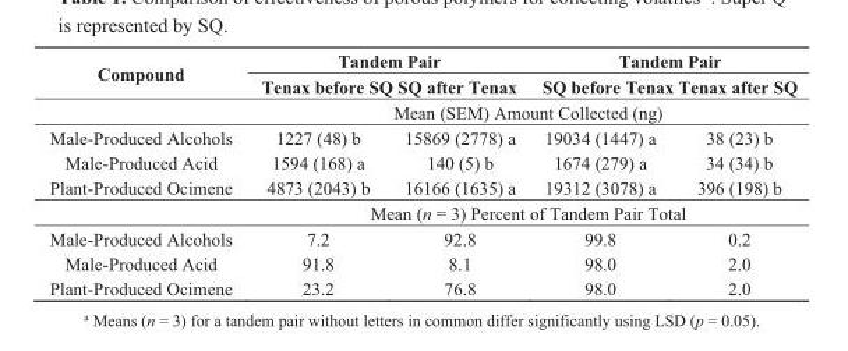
<table><thead><tr><td rowspan="4">Compound Male-Produced Alcohols</td><td rowspan="2" colspan="2">Tandem Pair Tenax before SQ SQ after Tenax</td><td rowspan="2" colspan="2">Tandem Pair SQ before Tenax Tenax after SQ</td></tr><tr></tr><tr><td colspan="4">Mean (SEM) Amount Collected (ng)</td></tr><tr><td>1227 (48) b</td><td>15869 (2778) a</td><td>19034 (1447) a</td><td>38 (23) b</td></tr></thead><tbody><tr><td>Male-Produced Acid</td><td>1594 (168) a</td><td>140 (5) b</td><td>1674 (279) a</td><td>34 (34) b</td></tr><tr><td rowspan="2">Plant-Produced Ocimene</td><td>4873 (2043) b</td><td>16166 (1635) a</td><td>19312 (3078) a</td><td>396 (198) b</td></tr><tr><td colspan="4">Mean (n = 3) Percent of Tandem Pair Total</td></tr><tr><td>Male-Produced Alcohols</td><td>7.2</td><td>92.8</td><td>99.8</td><td>0.2</td></tr><tr><td>Male-Produced Acid</td><td>91.8</td><td>8.1</td><td>98.0</td><td>2.0</td></tr><tr><td>Plant-Produced Ocimene</td><td>23.2</td><td>76.8</td><td>98.0</td><td>2.0</td></tr></tbody></table>